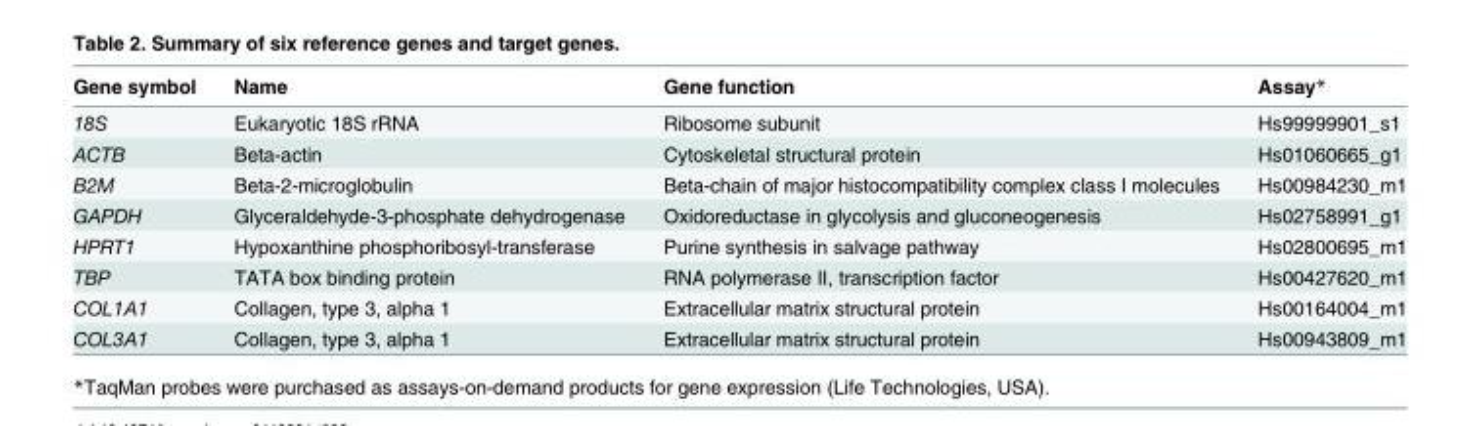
<table><thead><tr><td>Gene symbol</td><td>Name</td><td>Gene function</td><td>Assay*</td></tr></thead><tbody><tr><td>18S</td><td>Eukaryotic 18S rRNA</td><td>Ribosome subunit</td><td>Hs99999901_s1</td></tr><tr><td>ACTB</td><td>Beta-actin</td><td>Cytoskeletal structural protein</td><td>Hs01060665_g1</td></tr><tr><td>B2M</td><td>Beta-2-microglobulin</td><td>Beta-chain of major histocompatibility complex class I molecules</td><td>Hs00984230_m1</td></tr><tr><td>GAPDH</td><td>Glyceraldehyde-3-phosphate dehydrogenase</td><td>Oxidoreductase in glycolysis and gluconeogenesis</td><td>Hs02758991_g1</td></tr><tr><td>HPRT1</td><td>Hypoxanthine phosphoribosyl-transferase</td><td>Purine synthesis in salvage pathway</td><td>Hs02800695_m1</td></tr><tr><td>TBP</td><td>TATA box binding protein</td><td>RNA polymerase II, transcription factor</td><td>Hs00427620_m1</td></tr><tr><td>COL1A1</td><td>Collagen, type 3, alpha 1</td><td>Extracellular matrix structural protein</td><td>Hs00164004_m1</td></tr><tr><td>COL3A1</td><td>Collagen, type 3, alpha 1</td><td>Extracellular matrix structural protein</td><td>Hs00943809_m1</td></tr></tbody></table>